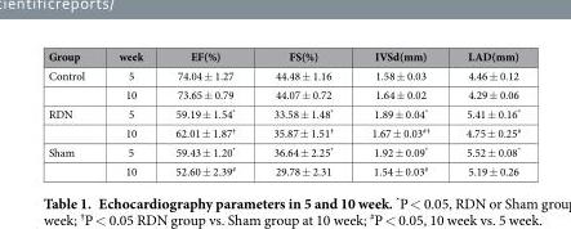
<table><thead><tr><td>Group</td><td>week</td><td>EF(%)</td><td>FS(%)</td><td>IVSd(mm)</td><td>LAD(mm)</td></tr></thead><tbody><tr><td rowspan="2">Control</td><td>5</td><td>74.04 ± 1.27</td><td>44.48 ± 1.16</td><td>1.58 ± 0.03</td><td>4.46 ± 0.12</td></tr><tr><td>10</td><td>73.65 ± 0.79</td><td>44.07 ± 0.72</td><td>1.64 ± 0.02</td><td>4.29 ± 0.06</td></tr><tr><td rowspan="2">RDN</td><td>5</td><td>59.19 ± 1.54*</td><td>33.58 ± 1.48*</td><td>1.89 ± 0.04*</td><td>5.41 ± 0.16*</td></tr><tr><td>10</td><td>62.01 ± 1.87<sup>†</sup></td><td>35.87 ± 1.51<sup>†</sup></td><td>1.67 ± 0.03<sup>#†</sup></td><td>4.75 ± 0.25<sup>#</sup></td></tr><tr><td rowspan="2">Sham</td><td>5</td><td>59.43 ± 1.20*</td><td>36.64 ± 2.25*</td><td>1.92 ± 0.09*</td><td>5.52 ± 0.08*</td></tr><tr><td>10</td><td>52.60 ± 2.39<sup>#</sup></td><td>29.78 ± 2.31</td><td>1.54 ± 0.03<sup>#</sup></td><td>5.19 ± 0.26</td></tr></tbody></table>